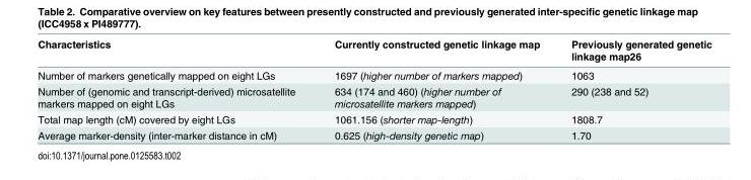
<table><thead><tr><td>Characteristics</td><td>Currently constructed genetic linkage map</td><td>Previously generated genetic linkage map26</td></tr></thead><tbody><tr><td>Number of markers genetically mapped on eight LGs</td><td>1697 (higher number of markers mapped)</td><td>1063</td></tr><tr><td>Number of (genomic and transcript-derived) microsatellite markers mapped on eight LGs</td><td>634 (174 and 460) (higher number of microsatellite markers mapped)</td><td>290 (238 and 52)</td></tr><tr><td>Total map length (cM) covered by eight LGs</td><td>1061.156 (shorter map-length)</td><td>1808.7</td></tr><tr><td>Average marker-density (inter-marker distance in cM)</td><td>0.625 (high-density genetic map)</td><td>1.70</td></tr></tbody></table>